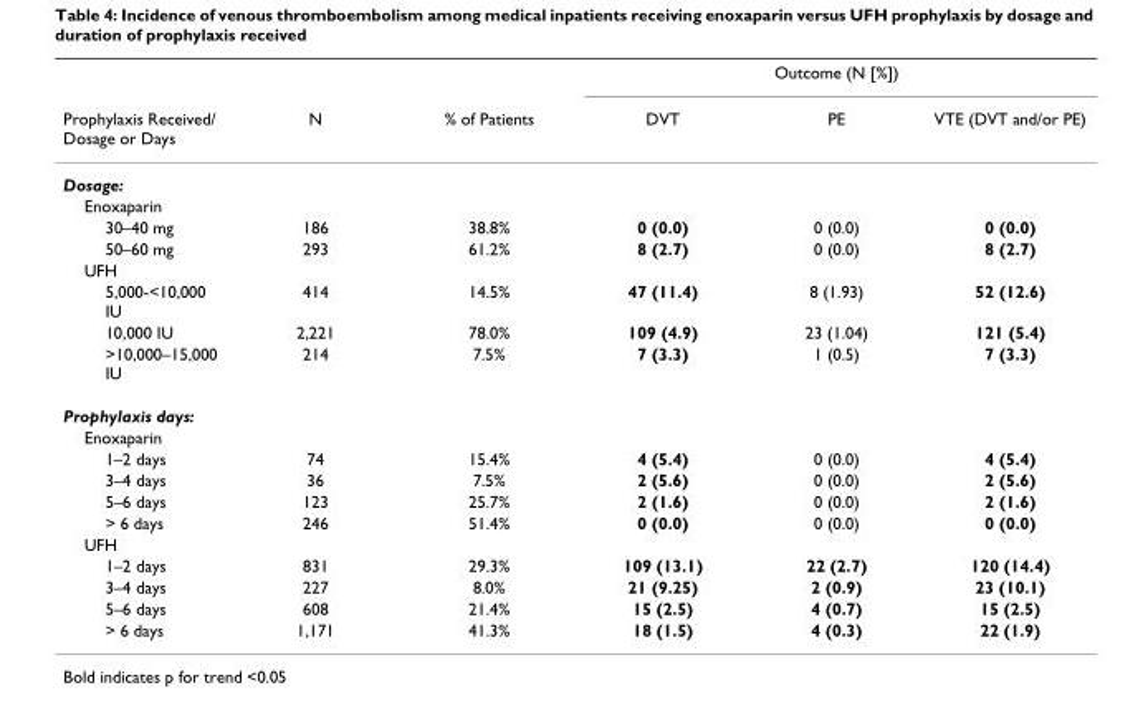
<table><thead><tr><td rowspan="2">Prophylaxis Received/ Dosage or Days</td><td rowspan="2">N</td><td rowspan="2">% of Patients</td><td colspan="3">Outcome (N [%])</td></tr><tr><td>DVT</td><td>PE</td><td>VTE (DVT and/or PE)</td></tr></thead><tbody><tr><td colspan="6">Dosage:</td></tr><tr><td colspan="6">Enoxaparin</td></tr><tr><td>30–40 mg</td><td>186</td><td>38.8%</td><td>0 (0.0)</td><td>0 (0.0)</td><td>0 (0.0)</td></tr><tr><td>50–60 mg</td><td>293</td><td>61.2%</td><td>8 (2.7)</td><td>0 (0.0)</td><td>8 (2.7)</td></tr><tr><td colspan="6">UFH</td></tr><tr><td>5,000-&lt;10,000 IU</td><td>414</td><td>14.5%</td><td>47 (11.4)</td><td>8 (1.93)</td><td>52 (12.6)</td></tr><tr><td>10,000 IU</td><td>2,221</td><td>78.0%</td><td>109 (4.9)</td><td>23 (1.04)</td><td>121 (5.4)</td></tr><tr><td>&gt;10,000–15,000 IU</td><td>214</td><td>7.5%</td><td>7 (3.3)</td><td>1 (0.5)</td><td>7 (3.3)</td></tr><tr><td colspan="6">Prophylaxis days:</td></tr><tr><td colspan="6">Enoxaparin</td></tr><tr><td>1–2 days</td><td>74</td><td>15.4%</td><td>4 (5.4)</td><td>0 (0.0)</td><td>4 (5.4)</td></tr><tr><td>3–4 days</td><td>36</td><td>7.5%</td><td>2 (5.6)</td><td>0 (0.0)</td><td>2 (5.6)</td></tr><tr><td>5–6 days</td><td>123</td><td>25.7%</td><td>2 (1.6)</td><td>0 (0.0)</td><td>2 (1.6)</td></tr><tr><td>&gt; 6 days</td><td>246</td><td>51.4%</td><td>0 (0.0)</td><td>0 (0.0)</td><td>0 (0.0)</td></tr><tr><td colspan="6">UFH</td></tr><tr><td>1–2 days</td><td>831</td><td>29.3%</td><td>109 (13.1)</td><td>22 (2.7)</td><td>120 (14.4)</td></tr><tr><td>3–4 days</td><td>227</td><td>8.0%</td><td>21 (9.25)</td><td>2 (0.9)</td><td>23 (10.1)</td></tr><tr><td>5–6 days</td><td>608</td><td>21.4%</td><td>15 (2.5)</td><td>4 (0.7)</td><td>15 (2.5)</td></tr><tr><td>&gt; 6 days</td><td>1,171</td><td>41.3%</td><td>18 (1.5)</td><td>4 (0.3)</td><td>22 (1.9)</td></tr></tbody></table>